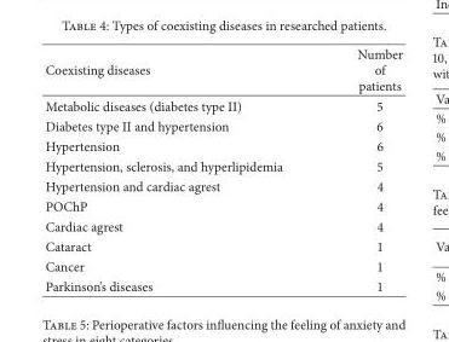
<table><thead><tr><td>Coexisting diseases</td><td>Number of patients</td></tr></thead><tbody><tr><td>Metabolic diseases (diabetes type II)</td><td>5</td></tr><tr><td>Diabetes type II and hypertension</td><td>6</td></tr><tr><td>Hypertension</td><td>6</td></tr><tr><td>Hypertension, sclerosis, and hyperlipidemia</td><td>5</td></tr><tr><td>Hypertension and cardiac agrest</td><td>4</td></tr><tr><td>POChP</td><td>4</td></tr><tr><td>Cardiac agrest</td><td>4</td></tr><tr><td>Cataract</td><td>1</td></tr><tr><td>Cancer</td><td>1</td></tr><tr><td>Parkinson’s diseases</td><td>1</td></tr></tbody></table>